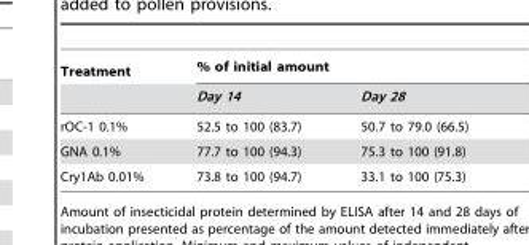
<table><thead><tr><td rowspan="2">Treatment</td><td colspan="2">% of initial amount</td></tr><tr><td>Day 14</td><td>Day 28</td></tr></thead><tbody><tr><td>rOC-1 0.1%</td><td>52.5 to 100 (83.7)</td><td>50.7 to 79.0 (66.5)</td></tr><tr><td>GNA 0.1%</td><td>77.7 to 100 (94.3)</td><td>75.3 to 100 (91.8)</td></tr><tr><td>Cry1Ab 0.01%</td><td>73.8 to 100 (94.7)</td><td>33.1 to 100 (75.3)</td></tr></tbody></table>